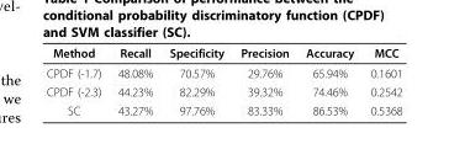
<table><thead><tr><td>Method</td><td>Recall</td><td>Specificity</td><td>Precision</td><td>Accuracy</td><td>MCC</td></tr></thead><tbody><tr><td>CPDF (-1.7)</td><td>48.08%</td><td>70.57%</td><td>29.76%</td><td>65.94%</td><td>0.1601</td></tr><tr><td>CPDF (-2.3)</td><td>44.23%</td><td>82.29%</td><td>39.32%</td><td>74.46%</td><td>0.2542</td></tr><tr><td>SC</td><td>43.27%</td><td>97.76%</td><td>83.33%</td><td>86.53%</td><td>0.5368</td></tr></tbody></table>